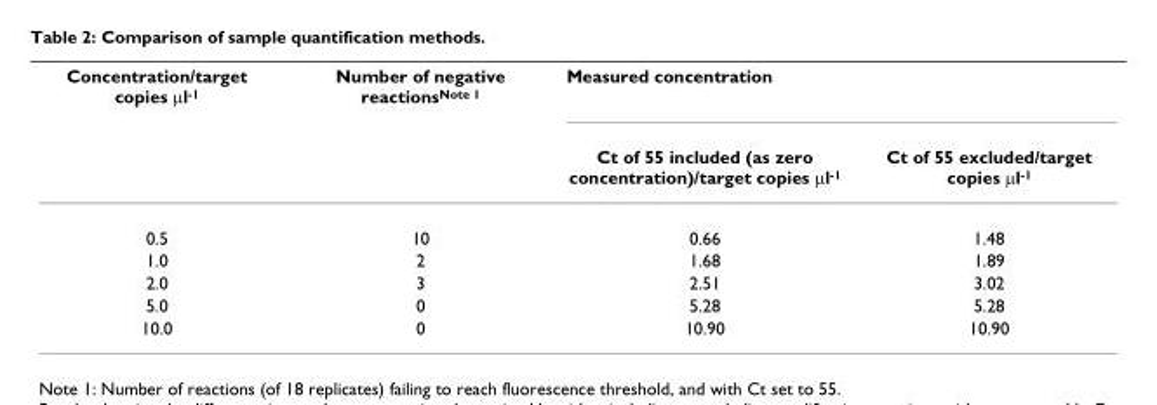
<table><thead><tr><td rowspan="2">Concentration/target copies μl-1</td><td rowspan="2">Number of negative reactionsNote 1</td><td colspan="2">Measured concentration</td></tr><tr><td>Ct of 55 included (as zero concentration)/target copies μl-1</td><td>Ct of 55 excluded/target copies μl-1</td></tr></thead><tbody><tr><td>0.5</td><td>10</td><td>0.66</td><td>1.48</td></tr><tr><td>1.0</td><td>2</td><td>1.68</td><td>1.89</td></tr><tr><td>2.0</td><td>3</td><td>2.51</td><td>3.02</td></tr><tr><td>5.0</td><td>0</td><td>5.28</td><td>5.28</td></tr><tr><td>10.0</td><td>0</td><td>10.90</td><td>10.90</td></tr></tbody></table>